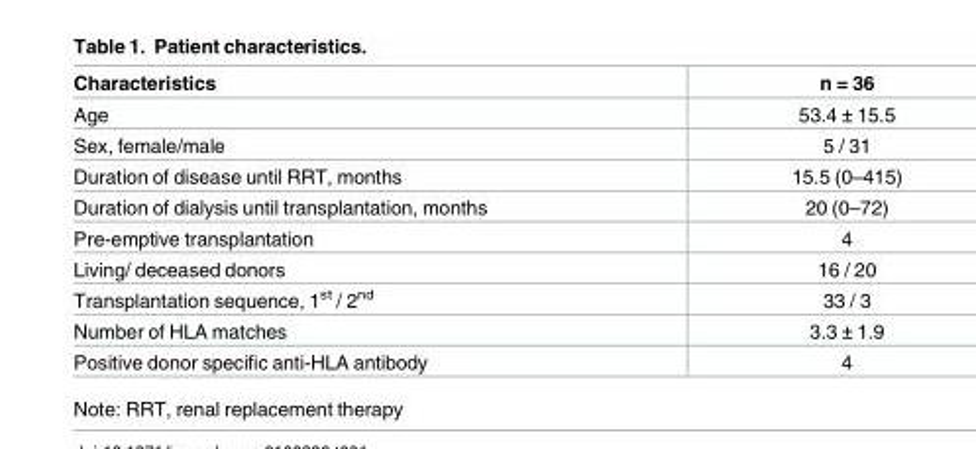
<table><thead><tr><td>Characteristics</td><td>n = 36</td></tr></thead><tbody><tr><td>Age</td><td>53.4 ± 15.5</td></tr><tr><td>Sex, female/male</td><td>5 / 31</td></tr><tr><td>Duration of disease until RRT, months</td><td>15.5 (0–415)</td></tr><tr><td>Duration of dialysis until transplantation, months</td><td>20 (0–72)</td></tr><tr><td>Pre-emptive transplantation</td><td>4</td></tr><tr><td>Living/ deceased donors</td><td>16 / 20</td></tr><tr><td>Transplantation sequence, 1<sup>st</sup> / 2<sup>nd</sup></td><td>33 / 3</td></tr><tr><td>Number of HLA matches</td><td>3.3 ± 1.9</td></tr><tr><td>Positive donor specific anti-HLA antibody</td><td>4</td></tr></tbody></table>